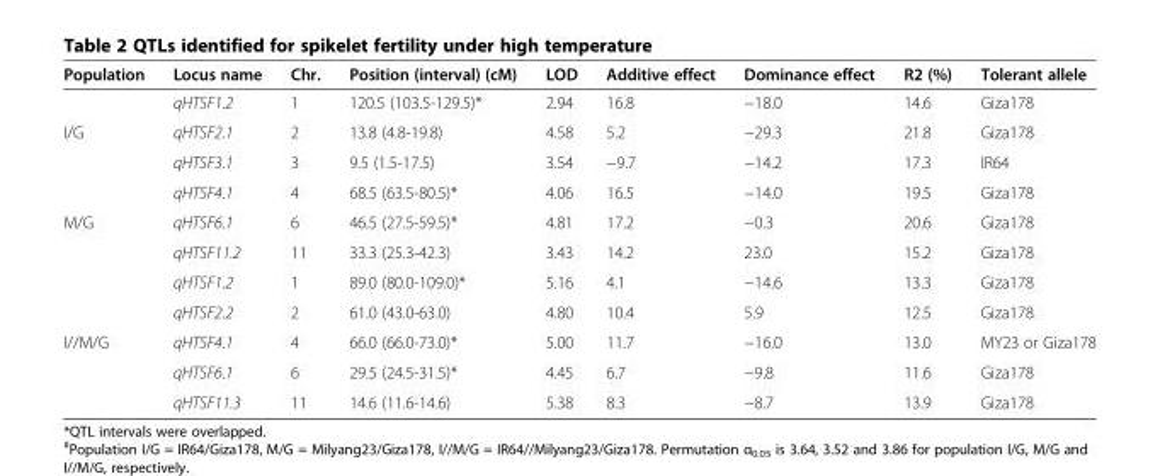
<table><thead><tr><td>Population</td><td>Locus name</td><td>Chr.</td><td>Position (interval) (cM)</td><td>LOD</td><td>Additive effect</td><td>Dominance effect</td><td>R2 (%)</td><td>Tolerant allele</td></tr></thead><tbody><tr><td></td><td>qHTSF1.2</td><td>1</td><td>120.5 (103.5-129.5)*</td><td>2.94</td><td>16.8</td><td>−18.0</td><td>14.6</td><td>Giza178</td></tr><tr><td rowspan="3">I/G</td><td>qHTSF2.1</td><td>2</td><td>13.8 (4.8-19.8)</td><td>4.58</td><td>5.2</td><td>−29.3</td><td>21.8</td><td>Giza178</td></tr><tr><td>qHTSF3.1</td><td>3</td><td>9.5 (1.5-17.5)</td><td>3.54</td><td>−9.7</td><td>−14.2</td><td>17.3</td><td>IR64</td></tr><tr><td>qHTSF4.1</td><td>4</td><td>68.5 (63.5-80.5)*</td><td>4.06</td><td>16.5</td><td>−14.0</td><td>19.5</td><td>Giza178</td></tr><tr><td rowspan="4">M/G</td><td>qHTSF6.1</td><td>6</td><td>46.5 (27.5-59.5)*</td><td>4.81</td><td>17.2</td><td>−0.3</td><td>20.6</td><td>Giza178</td></tr><tr><td>qHTSF11.2</td><td>11</td><td>33.3 (25.3-42.3)</td><td>3.43</td><td>14.2</td><td>23.0</td><td>15.2</td><td>Giza178</td></tr><tr><td>qHTSF1.2</td><td>1</td><td>89.0 (80.0-109.0)*</td><td>5.16</td><td>4.1</td><td>−14.6</td><td>13.3</td><td>Giza178</td></tr><tr><td>qHTSF2.2</td><td>2</td><td>61.0 (43.0-63.0)</td><td>4.80</td><td>10.4</td><td>5.9</td><td>12.5</td><td>Giza178</td></tr><tr><td rowspan="3">I//M/G</td><td>qHTSF4.1</td><td>4</td><td>66.0 (66.0-73.0)*</td><td>5.00</td><td>11.7</td><td>−16.0</td><td>13.0</td><td>MY23 or Giza178</td></tr><tr><td>qHTSF6.1</td><td>6</td><td>29.5 (24.5-31.5)*</td><td>4.45</td><td>6.7</td><td>−9.8</td><td>11.6</td><td>Giza178</td></tr><tr><td>qHTSF11.3</td><td>11</td><td>14.6 (11.6-14.6)</td><td>5.38</td><td>8.3</td><td>−8.7</td><td>13.9</td><td>Giza178</td></tr></tbody></table>